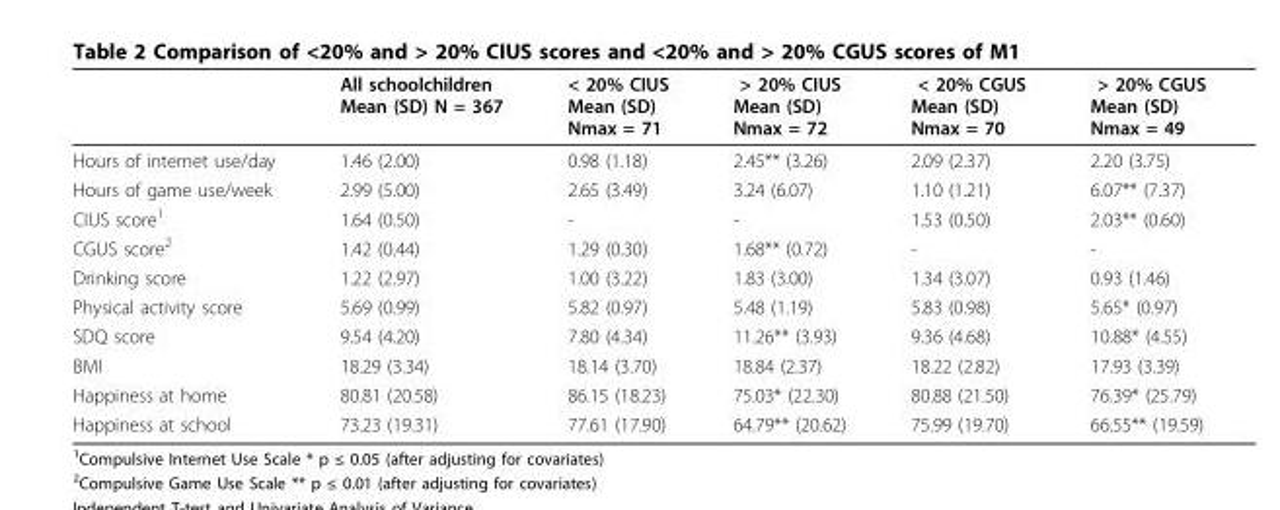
<table><thead><tr><td></td><td>All schoolchildren Mean (SD) N = 367</td><td>&lt; 20% CIUS Mean (SD) Nmax = 71</td><td>&gt; 20% CIUS Mean (SD) Nmax = 72</td><td>&lt; 20% CGUS Mean (SD) Nmax = 70</td><td>&gt; 20% CGUS Mean (SD) Nmax = 49</td></tr></thead><tbody><tr><td>Hours of internet use/day</td><td>1.46 (2.00)</td><td>0.98 (1.18)</td><td>2.45** (3.26)</td><td>2.09 (2.37)</td><td>2.20 (3.75)</td></tr><tr><td>Hours of game use/week</td><td>2.99 (5.00)</td><td>2.65 (3.49)</td><td>3.24 (6.07)</td><td>1.10 (1.21)</td><td>6.07** (7.37)</td></tr><tr><td>CIUS score<sup>1</sup></td><td>1.64 (0.50)</td><td>-</td><td>-</td><td>1.53 (0.50)</td><td>2.03** (0.60)</td></tr><tr><td>CGUS score<sup>2</sup></td><td>1.42 (0.44)</td><td>1.29 (0.30)</td><td>1.68** (0.72)</td><td>-</td><td>-</td></tr><tr><td>Drinking score</td><td>1.22 (2.97)</td><td>1.00 (3.22)</td><td>1.83 (3.00)</td><td>1.34 (3.07)</td><td>0.93 (1.46)</td></tr><tr><td>Physical activity score</td><td>5.69 (0.99)</td><td>5.82 (0.97)</td><td>5.48 (1.19)</td><td>5.83 (0.98)</td><td>5.65* (0.97)</td></tr><tr><td>SDQ score</td><td>9.54 (4.20)</td><td>7.80 (4.34)</td><td>11.26** (3.93)</td><td>9.36 (4.68)</td><td>10.88* (4.55)</td></tr><tr><td>BMI</td><td>18.29 (3.34)</td><td>18.14 (3.70)</td><td>18.84 (2.37)</td><td>18.22 (2.82)</td><td>17.93 (3.39)</td></tr><tr><td>Happiness at home</td><td>80.81 (20.58)</td><td>86.15 (18.23)</td><td>75.03* (22.30)</td><td>80.88 (21.50)</td><td>76.39* (25.79)</td></tr><tr><td>Happiness at school</td><td>73.23 (19.31)</td><td>77.61 (17.90)</td><td>64.79** (20.62)</td><td>75.99 (19.70)</td><td>66.55** (19.59)</td></tr></tbody></table>